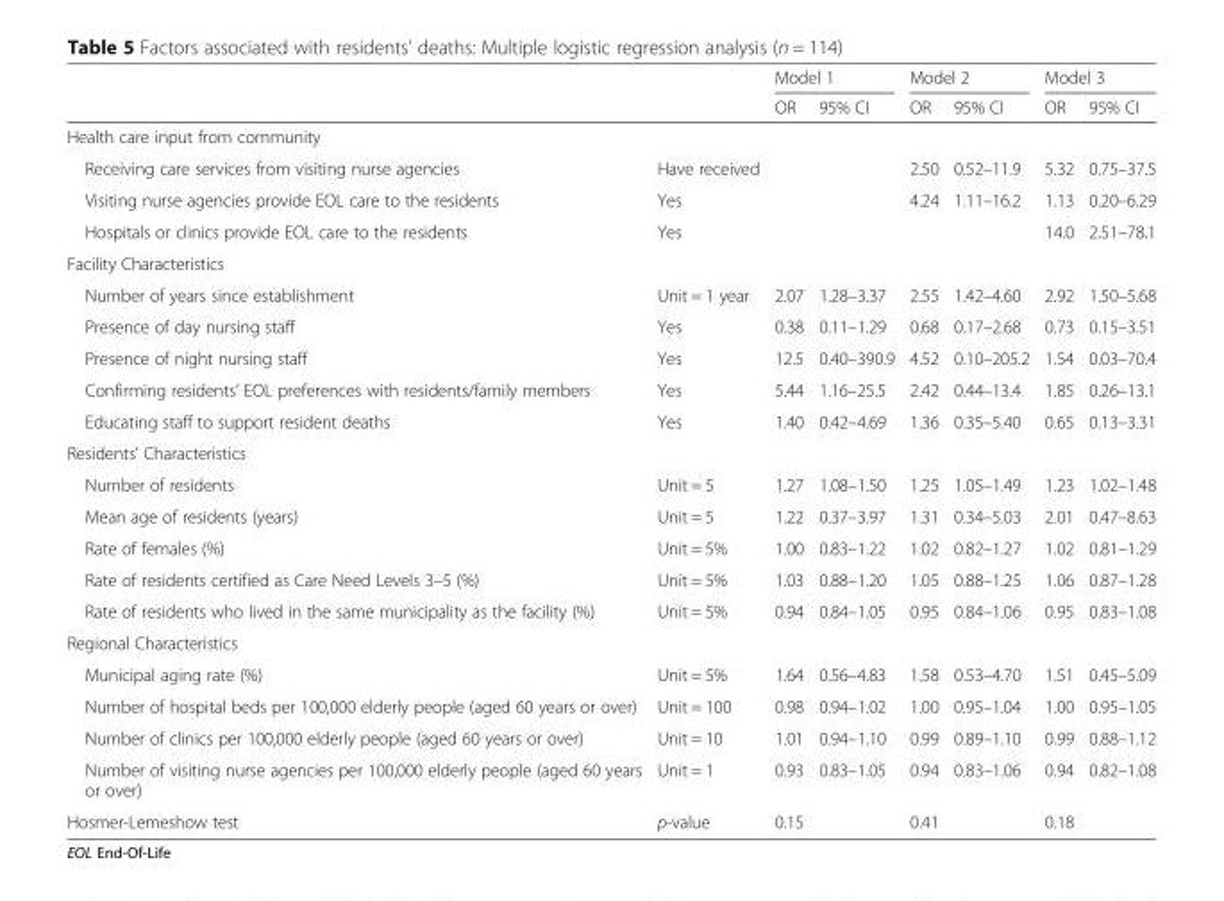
<table><thead><tr><td rowspan="2"></td><td rowspan="2"></td><td colspan="2">Model 1</td><td colspan="2">Model 2</td><td colspan="2">Model 3</td></tr><tr><td>OR</td><td>95% CI</td><td>OR</td><td>95% CI</td><td>OR</td><td>95% CI</td></tr></thead><tbody><tr><td colspan="8">Health care input from community</td></tr><tr><td>Receiving care services from visiting nurse agencies</td><td>Have received</td><td></td><td></td><td>2.50</td><td>0.52–11.9</td><td>5.32</td><td>0.75–37.5</td></tr><tr><td>Visiting nurse agencies provide EOL care to the residents</td><td>Yes</td><td></td><td></td><td>4.24</td><td>1.11–16.2</td><td>1.13</td><td>0.20–6.29</td></tr><tr><td>Hospitals or clinics provide EOL care to the residents</td><td>Yes</td><td></td><td></td><td></td><td></td><td>14.0</td><td>2.51–78.1</td></tr><tr><td colspan="8">Facility Characteristics</td></tr><tr><td>Number of years since establishment</td><td>Unit = 1 year</td><td>2.07</td><td>1.28–3.37</td><td>2.55</td><td>1.42–4.60</td><td>2.92</td><td>1.50–5.68</td></tr><tr><td>Presence of day nursing staff</td><td>Yes</td><td>0.38</td><td>0.11–1.29</td><td>0.68</td><td>0.17–2.68</td><td>0.73</td><td>0.15–3.51</td></tr><tr><td>Presence of night nursing staff</td><td>Yes</td><td>12.5</td><td>0.40–390.9</td><td>4.52</td><td>0.10–205.2</td><td>1.54</td><td>0.03–70.4</td></tr><tr><td>Confirming residents’ EOL preferences with residents/family members</td><td>Yes</td><td>5.44</td><td>1.16–25.5</td><td>2.42</td><td>0.44–13.4</td><td>1.85</td><td>0.26–13.1</td></tr><tr><td>Educating staff to support resident deaths</td><td>Yes</td><td>1.40</td><td>0.42–4.69</td><td>1.36</td><td>0.35–5.40</td><td>0.65</td><td>0.13–3.31</td></tr><tr><td colspan="8">Residents’ Characteristics</td></tr><tr><td>Number of residents</td><td>Unit = 5</td><td>1.27</td><td>1.08–1.50</td><td>1.25</td><td>1.05–1.49</td><td>1.23</td><td>1.02–1.48</td></tr><tr><td>Mean age of residents (years)</td><td>Unit = 5</td><td>1.22</td><td>0.37–3.97</td><td>1.31</td><td>0.34–5.03</td><td>2.01</td><td>0.47–8.63</td></tr><tr><td>Rate of females (%)</td><td>Unit = 5%</td><td>1.00</td><td>0.83–1.22</td><td>1.02</td><td>0.82–1.27</td><td>1.02</td><td>0.81–1.29</td></tr><tr><td>Rate of residents certified as Care Need Levels 3–5 (%)</td><td>Unit = 5%</td><td>1.03</td><td>0.88–1.20</td><td>1.05</td><td>0.88–1.25</td><td>1.06</td><td>0.87–1.28</td></tr><tr><td>Rate of residents who lived in the same municipality as the facility (%)</td><td>Unit = 5%</td><td>0.94</td><td>0.84–1.05</td><td>0.95</td><td>0.84–1.06</td><td>0.95</td><td>0.83–1.08</td></tr><tr><td colspan="8">Regional Characteristics</td></tr><tr><td>Municipal aging rate (%)</td><td>Unit = 5%</td><td>1.64</td><td>0.56–4.83</td><td>1.58</td><td>0.53–4.70</td><td>1.51</td><td>0.45–5.09</td></tr><tr><td>Number of hospital beds per 100,000 elderly people (aged 60 years or over)</td><td>Unit = 100</td><td>0.98</td><td>0.94–1.02</td><td>1.00</td><td>0.95–1.04</td><td>1.00</td><td>0.95–1.05</td></tr><tr><td>Number of clinics per 100,000 elderly people (aged 60 years or over)</td><td>Unit = 10</td><td>1.01</td><td>0.94–1.10</td><td>0.99</td><td>0.89–1.10</td><td>0.99</td><td>0.88–1.12</td></tr><tr><td>Number of visiting nurse agencies per 100,000 elderly people (aged 60 years or over)</td><td>Unit = 1</td><td>0.93</td><td>0.83–1.05</td><td>0.94</td><td>0.83–1.06</td><td>0.94</td><td>0.82–1.08</td></tr><tr><td>Hosmer-Lemeshow test</td><td>p-value</td><td>0.15</td><td></td><td>0.41</td><td></td><td>0.18</td><td></td></tr></tbody></table>